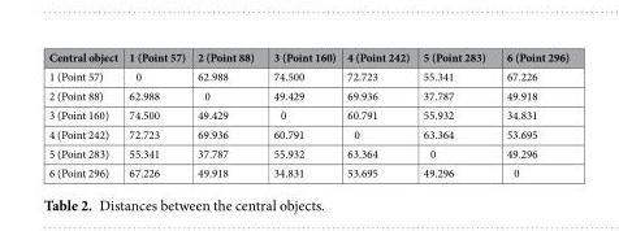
<table><thead><tr><td>Central object</td><td>1 (Point 57)</td><td>2 (Point 88)</td><td>3 (Point 160)</td><td>4 (Point 242)</td><td>5 (Point 283)</td><td>6 (Point 296)</td></tr></thead><tbody><tr><td>1 (Point 57)</td><td>0</td><td>62.988</td><td>74.500</td><td>72.723</td><td>55.341</td><td>67.226</td></tr><tr><td>2 (Point 88)</td><td>62.988</td><td>0</td><td>49.429</td><td>69.936</td><td>37.787</td><td>49.918</td></tr><tr><td>3 (Point 160)</td><td>74.500</td><td>49.429</td><td>0</td><td>60.791</td><td>55.932</td><td>34.831</td></tr><tr><td>4 (Point 242)</td><td>72.723</td><td>69.936</td><td>60.791</td><td>0</td><td>63.364</td><td>53.695</td></tr><tr><td>5 (Point 283)</td><td>55.341</td><td>37.787</td><td>55.932</td><td>63.364</td><td>0</td><td>49.296</td></tr><tr><td>6 (Point 296)</td><td>67.226</td><td>49.918</td><td>34.831</td><td>53.695</td><td>49.296</td><td>0</td></tr></tbody></table>